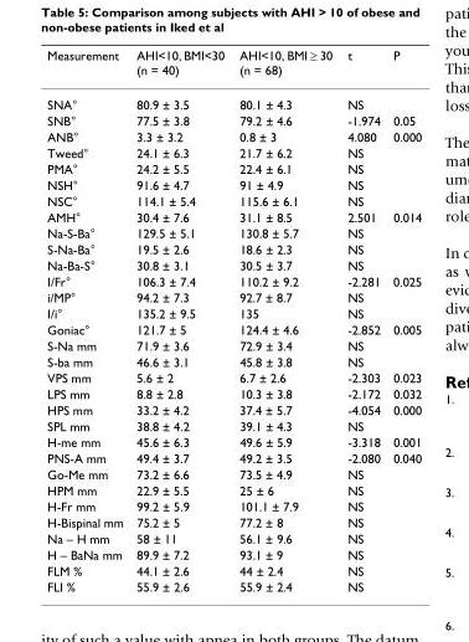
<table><thead><tr><td>Measurement</td><td>AHI&lt;10, BMI&lt;30 (n = 40)</td><td>AHI&lt;10, BMI ≥ 30 (n = 68)</td><td>t</td><td>P</td></tr></thead><tbody><tr><td>SNA°</td><td>80.9 ± 3.5</td><td>80.1 ± 4.3</td><td>NS</td><td></td></tr><tr><td>SNB°</td><td>77.5 ± 3.8</td><td>79.2 ± 4.6</td><td>-1.974</td><td>0.05</td></tr><tr><td>ANB°</td><td>3.3 ± 3.2</td><td>0.8 ± 3</td><td>4.080</td><td>0.000</td></tr><tr><td>Tweed°</td><td>24.1 ± 6.3</td><td>21.7 ± 6.2</td><td>NS</td><td></td></tr><tr><td>PMA°</td><td>24.2 ± 5.5</td><td>22.4 ± 6.1</td><td>NS</td><td></td></tr><tr><td>NSH°</td><td>91.6 ± 4.7</td><td>91 ± 4.9</td><td>NS</td><td></td></tr><tr><td>NSC°</td><td>114.1 ± 5.4</td><td>115.6 ± 6.1</td><td>NS</td><td></td></tr><tr><td>AMH°</td><td>30.4 ± 7.6</td><td>31.1 ± 8.5</td><td>2.501</td><td>0.014</td></tr><tr><td>Na-S-Ba°</td><td>129.5 ± 5.1</td><td>130.8 ± 5.7</td><td>NS</td><td></td></tr><tr><td>S-Na-Ba°</td><td>19.5 ± 2.6</td><td>18.6 ± 2.3</td><td>NS</td><td></td></tr><tr><td>Na-Ba-S°</td><td>30.8 ± 3.1</td><td>30.5 ± 3.7</td><td>NS</td><td></td></tr><tr><td>I/Fr°</td><td>106.3 ± 7.4</td><td>110.2 ± 9.2</td><td>-2.281</td><td>0.025</td></tr><tr><td>i/MP°</td><td>94.2 ± 7.3</td><td>92.7 ± 8.7</td><td>NS</td><td></td></tr><tr><td>I/i°</td><td>135.2 ± 9.5</td><td>135</td><td>NS</td><td></td></tr><tr><td>Goniac°</td><td>121.7 ± 5</td><td>124.4 ± 4.6</td><td>-2.852</td><td>0.005</td></tr><tr><td>S-Na mm</td><td>71.9 ± 3.6</td><td>72.9 ± 3.4</td><td>NS</td><td></td></tr><tr><td>S-ba mm</td><td>46.6 ± 3.1</td><td>45.8 ± 3.8</td><td>NS</td><td></td></tr><tr><td>VPS mm</td><td>5.6 ± 2</td><td>6.7 ± 2.6</td><td>-2.303</td><td>0.023</td></tr><tr><td>LPS mm</td><td>8.8 ± 2.8</td><td>10.3 ± 3.8</td><td>-2.172</td><td>0.032</td></tr><tr><td>HPS mm</td><td>33.2 ± 4.2</td><td>37.4 ± 5.7</td><td>-4.054</td><td>0.000</td></tr><tr><td>SPL mm</td><td>38.8 ± 4.2</td><td>39.1 ± 4.3</td><td>NS</td><td></td></tr><tr><td>H-me mm</td><td>45.6 ± 6.3</td><td>49.6 ± 5.9</td><td>-3.318</td><td>0.001</td></tr><tr><td>PNS-A mm</td><td>49.4 ± 3.7</td><td>49.2 ± 3.5</td><td>-2.080</td><td>0.040</td></tr><tr><td>Go-Me mm</td><td>73.2 ± 6.6</td><td>73.5 ± 4.9</td><td>NS</td><td></td></tr><tr><td>HPM mm</td><td>22.9 ± 5.5</td><td>25 ± 6</td><td>NS</td><td></td></tr><tr><td>H-Fr mm</td><td>99.2 ± 5.9</td><td>101.1 ± 7.9</td><td>NS</td><td></td></tr><tr><td>H-Bispinal mm</td><td>75.2 ± 5</td><td>77.2 ± 8</td><td>NS</td><td></td></tr><tr><td>Na – H mm</td><td>58 ± 11</td><td>56.1 ± 9.6</td><td>NS</td><td></td></tr><tr><td>H – BaNa mm</td><td>89.9 ± 7.2</td><td>93.1 ± 9</td><td>NS</td><td></td></tr><tr><td>FLM %</td><td>44.1 ± 2.6</td><td>44 ± 2.4</td><td>NS</td><td></td></tr><tr><td>FLI %</td><td>55.9 ± 2.6</td><td>55.9 ± 2.4</td><td>NS</td><td></td></tr></tbody></table>